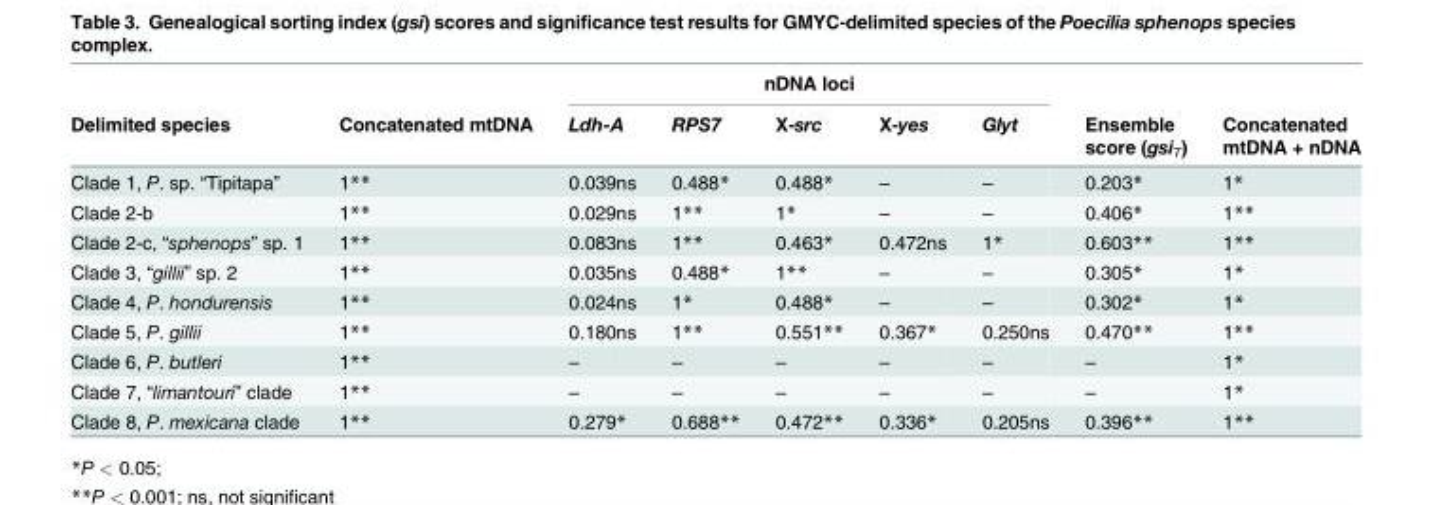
<table><thead><tr><td rowspan="2">Delimited species</td><td rowspan="2">Concatenated mtDNA</td><td colspan="5">nDNA loci</td><td rowspan="2">Ensemble score (gsi<sub>T</sub>)</td><td rowspan="2">Concatenated mtDNA + nDNA</td></tr><tr><td>Ldh-A</td><td>RPS7</td><td>X-src</td><td>X-yes</td><td>Glyt</td></tr></thead><tbody><tr><td>Clade 1, P. sp. “Tipitapa”</td><td>1**</td><td>0.039ns</td><td>0.488*</td><td>0.488*</td><td>–</td><td>–</td><td>0.203*</td><td>1*</td></tr><tr><td>Clade 2-b</td><td>1**</td><td>0.029ns</td><td>1**</td><td>1*</td><td>–</td><td>–</td><td>0.406*</td><td>1**</td></tr><tr><td>Clade 2-c, “sphenops” sp. 1</td><td>1**</td><td>0.083ns</td><td>1**</td><td>0.463*</td><td>0.472ns</td><td>1*</td><td>0.603**</td><td>1**</td></tr><tr><td>Clade 3, “gillii” sp. 2</td><td>1**</td><td>0.035ns</td><td>0.488*</td><td>1**</td><td>–</td><td>–</td><td>0.305*</td><td>1*</td></tr><tr><td>Clade 4, P. hondurensis</td><td>1**</td><td>0.024ns</td><td>1*</td><td>0.488*</td><td>–</td><td>–</td><td>0.302*</td><td>1*</td></tr><tr><td>Clade 5, P. gillii</td><td>1**</td><td>0.180ns</td><td>1**</td><td>0.551**</td><td>0.367*</td><td>0.250ns</td><td>0.470**</td><td>1**</td></tr><tr><td>Clade 6, P. butleri</td><td>1**</td><td>–</td><td>–</td><td>–</td><td>–</td><td>–</td><td>–</td><td>1*</td></tr><tr><td>Clade 7, “limantouri” clade</td><td>1**</td><td>–</td><td>–</td><td>–</td><td>–</td><td>–</td><td>–</td><td>1*</td></tr><tr><td>Clade 8, P. mexicana clade</td><td>1**</td><td>0.279*</td><td>0.688**</td><td>0.472**</td><td>0.336*</td><td>0.205ns</td><td>0.396**</td><td>1**</td></tr></tbody></table>